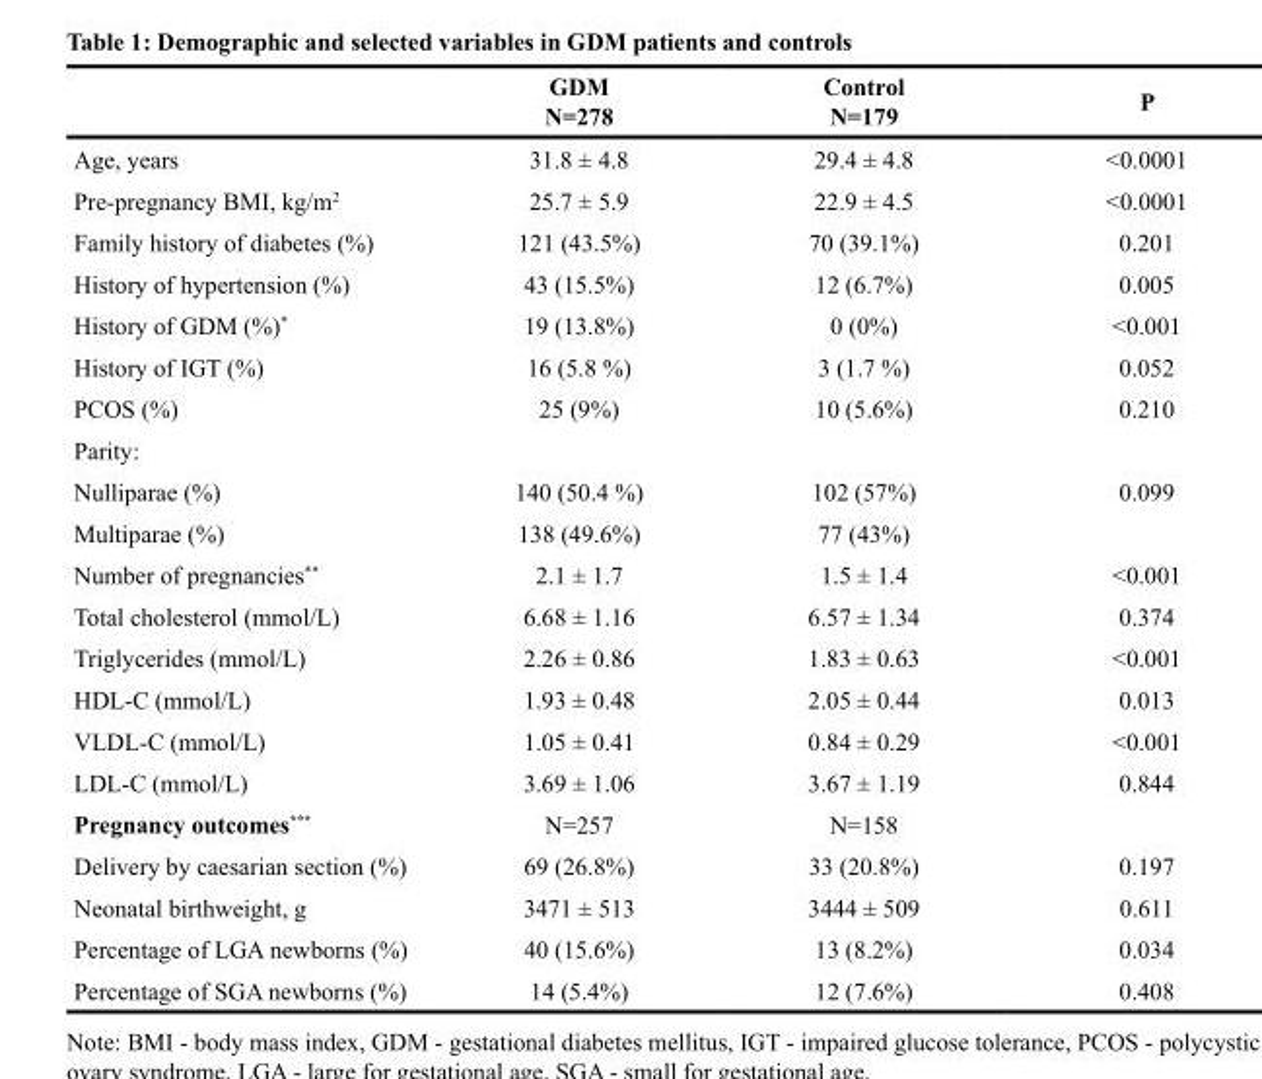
<table><thead><tr><td></td><td>GDM N=278</td><td>Control N=179</td><td>P</td></tr></thead><tbody><tr><td>Age, years</td><td>31.8 ± 4.8</td><td>29.4 ± 4.8</td><td>&lt;0.0001</td></tr><tr><td>Pre-pregnancy BMI, kg/m<sup>2</sup></td><td>25.7 ± 5.9</td><td>22.9 ± 4.5</td><td>&lt;0.0001</td></tr><tr><td>Family history of diabetes (%)</td><td>121 (43.5%)</td><td>70 (39.1%)</td><td>0.201</td></tr><tr><td>History of hypertension (%)</td><td>43 (15.5%)</td><td>12 (6.7%)</td><td>0.005</td></tr><tr><td>History of GDM (%)*</td><td>19 (13.8%)</td><td>0 (0%)</td><td>&lt;0.001</td></tr><tr><td>History of IGT (%)</td><td>16 (5.8 %)</td><td>3 (1.7 %)</td><td>0.052</td></tr><tr><td>PCOS (%)</td><td>25 (9%)</td><td>10 (5.6%)</td><td>0.210</td></tr><tr><td colspan="4">Parity:</td></tr><tr><td>Nulliparae (%)</td><td>140 (50.4 %)</td><td>102 (57%)</td><td>0.099</td></tr><tr><td>Multiparae (%)</td><td>138 (49.6%)</td><td>77 (43%)</td><td></td></tr><tr><td>Number of pregnancies**</td><td>2.1 ± 1.7</td><td>1.5 ± 1.4</td><td>&lt;0.001</td></tr><tr><td>Total cholesterol (mmol/L)</td><td>6.68 ± 1.16</td><td>6.57 ± 1.34</td><td>0.374</td></tr><tr><td>Triglycerides (mmol/L)</td><td>2.26 ± 0.86</td><td>1.83 ± 0.63</td><td>&lt;0.001</td></tr><tr><td>HDL-C (mmol/L)</td><td>1.93 ± 0.48</td><td>2.05 ± 0.44</td><td>0.013</td></tr><tr><td>VLDL-C (mmol/L)</td><td>1.05 ± 0.41</td><td>0.84 ± 0.29</td><td>&lt;0.001</td></tr><tr><td>LDL-C (mmol/L)</td><td>3.69 ± 1.06</td><td>3.67 ± 1.19</td><td>0.844</td></tr><tr><td>Pregnancy outcomes***</td><td>N=257</td><td>N=158</td><td></td></tr><tr><td>Delivery by caesarian section (%)</td><td>69 (26.8%)</td><td>33 (20.8%)</td><td>0.197</td></tr><tr><td>Neonatal birthweight, g</td><td>3471 ± 513</td><td>3444 ± 509</td><td>0.611</td></tr><tr><td>Percentage of LGA newborns (%)</td><td>40 (15.6%)</td><td>13 (8.2%)</td><td>0.034</td></tr><tr><td>Percentage of SGA newborns (%)</td><td>14 (5.4%)</td><td>12 (7.6%)</td><td>0.408</td></tr></tbody></table>